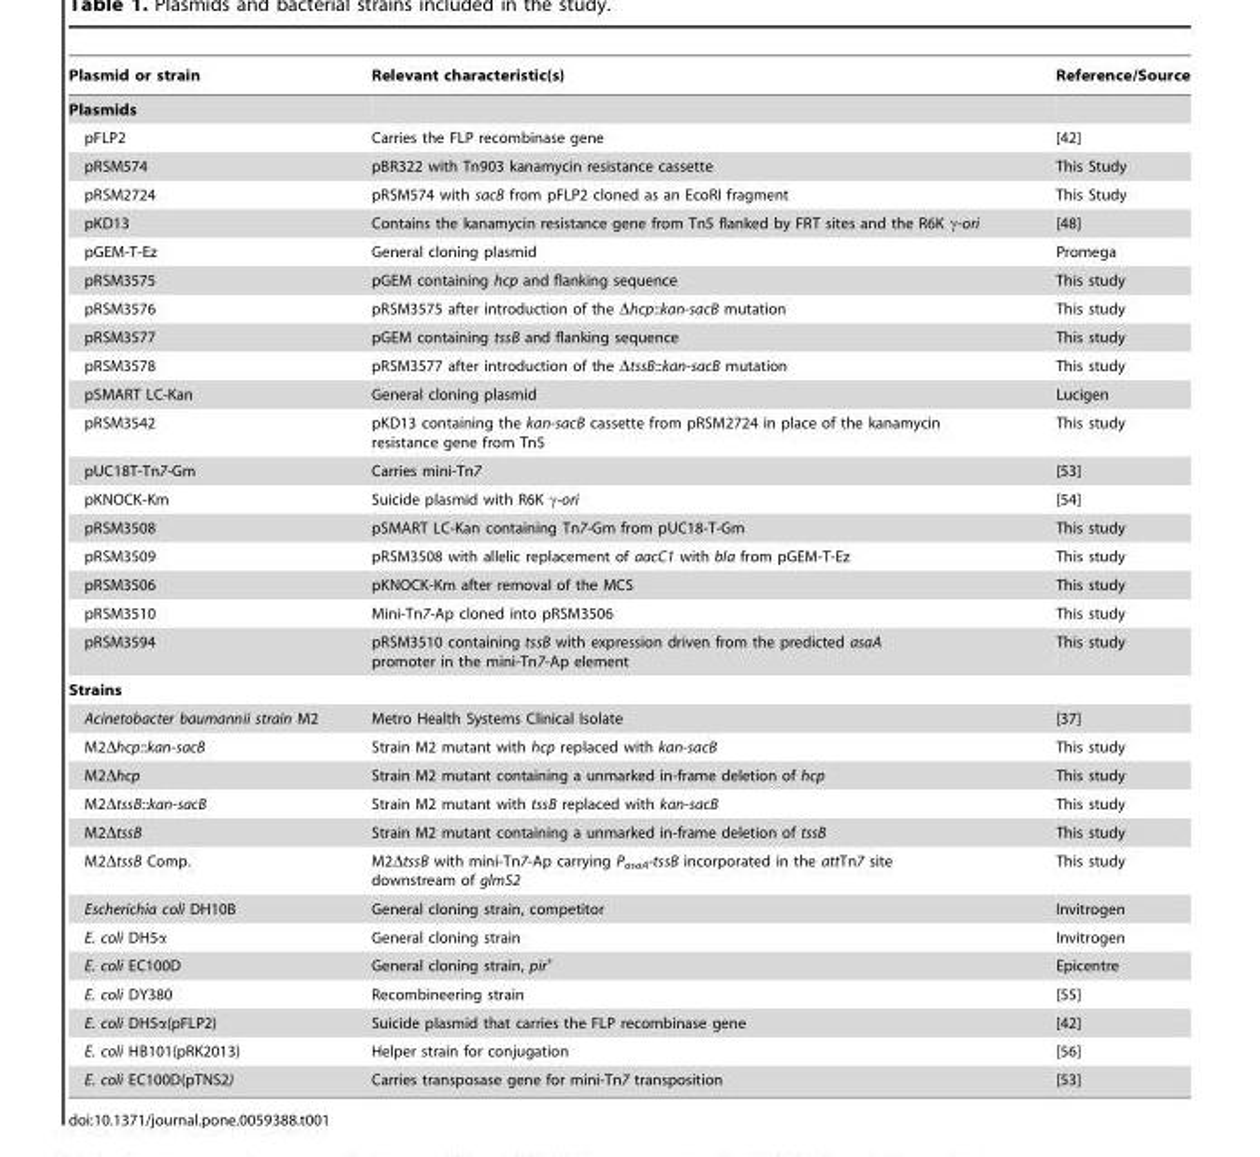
<table><thead><tr><td>Plasmid or strain</td><td>Relevant characteristic(s)</td><td>Reference/Source</td></tr></thead><tbody><tr><td colspan="3">Plasmids</td></tr><tr><td>pFLP2</td><td>Carries the FLP recombinase gene</td><td>[42]</td></tr><tr><td>pRSM574</td><td>pBR322 with Tn903 kanamycin resistance cassette</td><td>This Study</td></tr><tr><td>pRSM2724</td><td>pRSM574 with sacB from pFLP2 cloned as an EcoRI fragment</td><td>This Study</td></tr><tr><td>pKD13</td><td>Contains the kanamycin resistance gene from Tn5 flanked by FRT sites and the R6K γ-ori</td><td>[48]</td></tr><tr><td>pGEM-T-Ez</td><td>General cloning plasmid</td><td>Promega</td></tr><tr><td>pRSM3575</td><td>pGEM containing hcp and flanking sequence</td><td>This study</td></tr><tr><td>pRSM3576</td><td>pRSM3575 after introduction of the Δhcp::kan-sacB mutation</td><td>This study</td></tr><tr><td>pRSM3577</td><td>pGEM containing tssB and flanking sequence</td><td>This study</td></tr><tr><td>pRSM3578</td><td>pRSM3577 after introduction of the ΔtssB::kan-sacB mutation</td><td>This study</td></tr><tr><td>pSMART LC-Kan</td><td>General cloning plasmid</td><td>Lucigen</td></tr><tr><td>pRSM3542</td><td>pKD13 containing the kan-sacB cassette from pRSM2724 in place of the kanamycin resistance gene from Tn5</td><td>This study</td></tr><tr><td>pUC18T-Tn7-Gm</td><td>Carries mini-Tn7</td><td>[53]</td></tr><tr><td>pKNOCK-Km</td><td>Suicide plasmid with R6K γ-ori</td><td>[54]</td></tr><tr><td>pRSM3508</td><td>pSMART LC-Kan containing Tn7-Gm from pUC18-T-Gm</td><td>This study</td></tr><tr><td>pRSM3509</td><td>pRSM3508 with allelic replacement of aacC1 with bla from pGEM-T-Ez</td><td>This study</td></tr><tr><td>pRSM3506</td><td>pKNOCK-Km after removal of the MCS</td><td>This study</td></tr><tr><td>pRSM3510</td><td>Mini-Tn7-Ap cloned into pRSM3506</td><td>This study</td></tr><tr><td>pRSM3594</td><td>pRSM3510 containing tssB with expression driven from the predicted asaA promoter in the mini-Tn7-Ap element</td><td>This study</td></tr><tr><td colspan="3">Strains</td></tr><tr><td>Acinetobacter baumannii strain M2</td><td>Metro Health Systems Clinical Isolate</td><td>[37]</td></tr><tr><td>M2Δhcp::kan-sacB</td><td>Strain M2 mutant with hcp replaced with kan-sacB</td><td>This study</td></tr><tr><td>M2Δhcp</td><td>Strain M2 mutant containing a unmarked in-frame deletion of hcp</td><td>This study</td></tr><tr><td>M2ΔtssB::kan-sacB</td><td>Strain M2 mutant with tssB replaced with kan-sacB</td><td>This study</td></tr><tr><td>M2ΔtssB</td><td>Strain M2 mutant containing a unmarked in-frame deletion of tssB</td><td>This study</td></tr><tr><td>M2ΔtssB Comp.</td><td>M2ΔtssB with mini-Tn7-Ap carrying P<sub>asaA</sub>-tssB incorporated in the attTn7 site downstream of glmS2</td><td>This study</td></tr><tr><td>Escherichia coli DH10B</td><td>General cloning strain, competitor</td><td>Invitrogen</td></tr><tr><td>E. coli DH5α</td><td>General cloning strain</td><td>Invitrogen</td></tr><tr><td>E. coli EC100D</td><td>General cloning strain, pir<sup>+</sup></td><td>Epicentre</td></tr><tr><td>E. coli DY380</td><td>Recombineering strain</td><td>[55]</td></tr><tr><td>E. coli DH5α(pFLP2)</td><td>Suicide plasmid that carries the FLP recombinase gene</td><td>[42]</td></tr><tr><td>E. coli HB101(pRK2013)</td><td>Helper strain for conjugation</td><td>[56]</td></tr><tr><td>E. coli EC100D(pTNS2)</td><td>Carries transposase gene for mini-Tn7 transposition</td><td>[53]</td></tr></tbody></table>